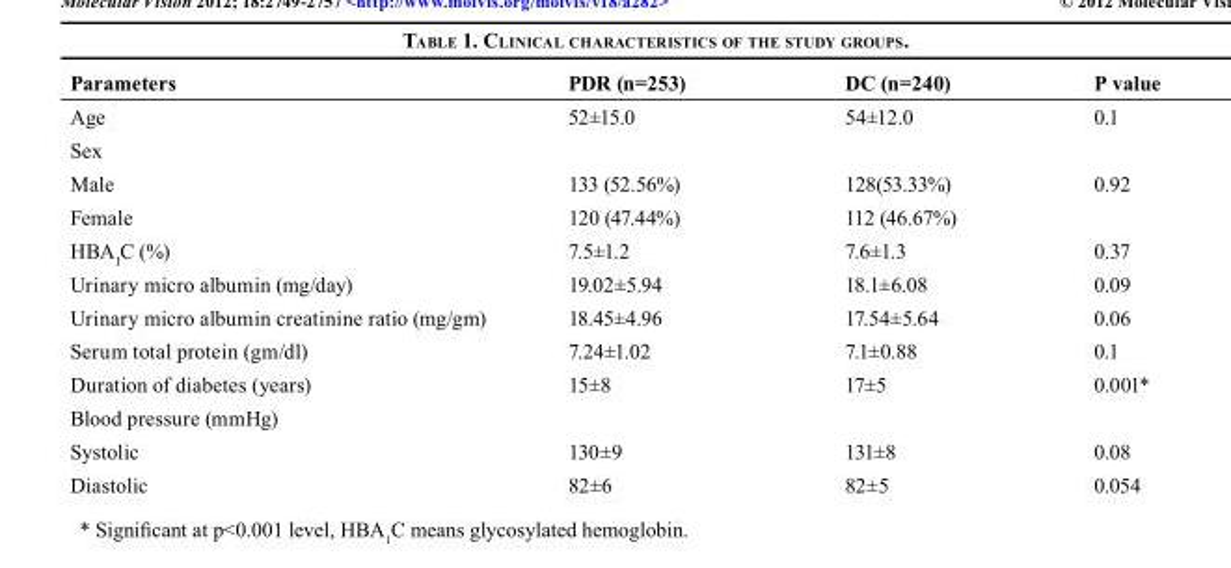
<table><thead><tr><td>Parameters</td><td>PDR (n=253)</td><td>DC (n=240)</td><td>P value</td></tr></thead><tbody><tr><td>Age</td><td>52±15.0</td><td>54±12.0</td><td>0.1</td></tr><tr><td colspan="4">Sex</td></tr><tr><td>Male</td><td>133 (52.56%)</td><td>128(53.33%)</td><td>0.92</td></tr><tr><td>Female</td><td>120 (47.44%)</td><td>112 (46.67%)</td><td></td></tr><tr><td>HBA<sub>I</sub>C (%)</td><td>7.5±1.2</td><td>7.6±1.3</td><td>0.37</td></tr><tr><td>Urinary micro albumin (mg/day)</td><td>19.02±5.94</td><td>18.1±6.08</td><td>0.09</td></tr><tr><td>Urinary micro albumin creatinine ratio (mg/gm)</td><td>18.45±4.96</td><td>17.54±5.64</td><td>0.06</td></tr><tr><td>Serum total protein (gm/dl)</td><td>7.24±1.02</td><td>7.1±0.88</td><td>0.1</td></tr><tr><td>Duration of diabetes (years)</td><td>15±8</td><td>17±5</td><td>0.001*</td></tr><tr><td colspan="4">Blood pressure (mmHg)</td></tr><tr><td>Systolic</td><td>130±9</td><td>131±8</td><td>0.08</td></tr><tr><td>Diastolic</td><td>82±6</td><td>82±5</td><td>0.054</td></tr></tbody></table>